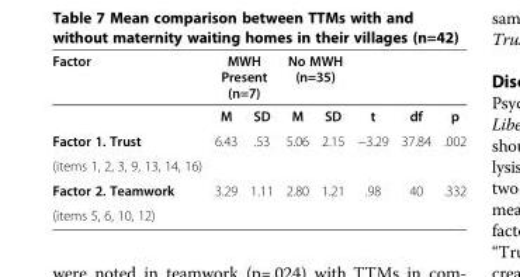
<table><thead><tr><td rowspan="2">Factor</td><td colspan="2">MWH Present (n=7)</td><td colspan="2">No MWH (n=35)</td><td rowspan="2">t</td><td rowspan="2">df</td><td rowspan="2">p</td></tr><tr><td>M</td><td>SD</td><td>M</td><td>SD</td></tr></thead><tbody><tr><td>Factor 1. Trust</td><td rowspan="2">6.43</td><td rowspan="2">.53</td><td rowspan="2">5.06</td><td rowspan="2">2.15</td><td rowspan="2">−3.29</td><td rowspan="2">37.84</td><td rowspan="2">.002</td></tr><tr><td>(items 1, 2, 3, 9, 13, 14, 16)</td></tr><tr><td>Factor 2. Teamwork</td><td>3.29</td><td>1.11</td><td>2.80</td><td>1.21</td><td>.98</td><td>40</td><td>.332</td></tr><tr><td>(items 5, 6, 10, 12)</td><td></td><td></td><td></td><td></td><td></td><td></td><td></td></tr></tbody></table>